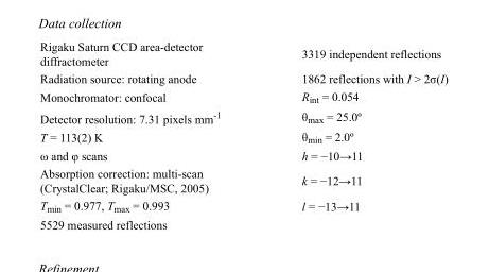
<table><tbody><tr><td>Rigaku Saturn CCD area-detector diffractometer</td><td>3319 independent reflections</td></tr><tr><td>Radiation source: rotating anode</td><td>1862 reflections with I &gt; 2σ(I)</td></tr><tr><td>Monochromator: confocal</td><td>R<sub>int</sub> = 0.054</td></tr><tr><td>Detector resolution: 7.31 pixels mm<sup>-1</sup></td><td>θ<sub>max</sub> = 25.0º</td></tr><tr><td>T = 113(2) K</td><td>θ<sub>min</sub> = 2.0º</td></tr><tr><td>ω and φ scans</td><td>h = −10→11</td></tr><tr><td>Absorption correction: multi-scan (CrystalClear; Rigaku/MSC, 2005)</td><td>k = −12→11</td></tr><tr><td>T<sub>min</sub> = 0.977, T<sub>max</sub> = 0.993</td><td>l = −13→11</td></tr><tr><td>5529 measured reflections</td><td></td></tr></tbody></table>